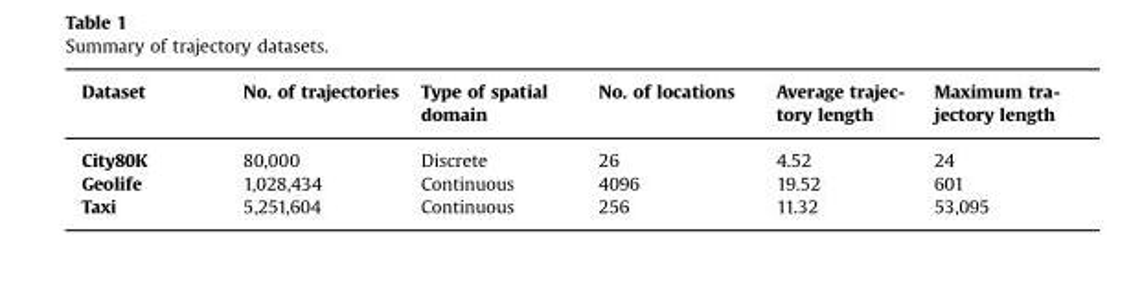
<table><thead><tr><td>Dataset</td><td>No. of trajectories</td><td>Type of spatial domain</td><td>No. of locations</td><td>Average trajec- tory length</td><td>Maximum tra- jectory length</td></tr></thead><tbody><tr><td>City80K</td><td>80,000</td><td>Discrete</td><td>26</td><td>4.52</td><td>24</td></tr><tr><td>Geolife</td><td>1,028,434</td><td>Continuous</td><td>4096</td><td>19.52</td><td>601</td></tr><tr><td>Taxi</td><td>5,251,604</td><td>Continuous</td><td>256</td><td>11.32</td><td>53,095</td></tr></tbody></table>